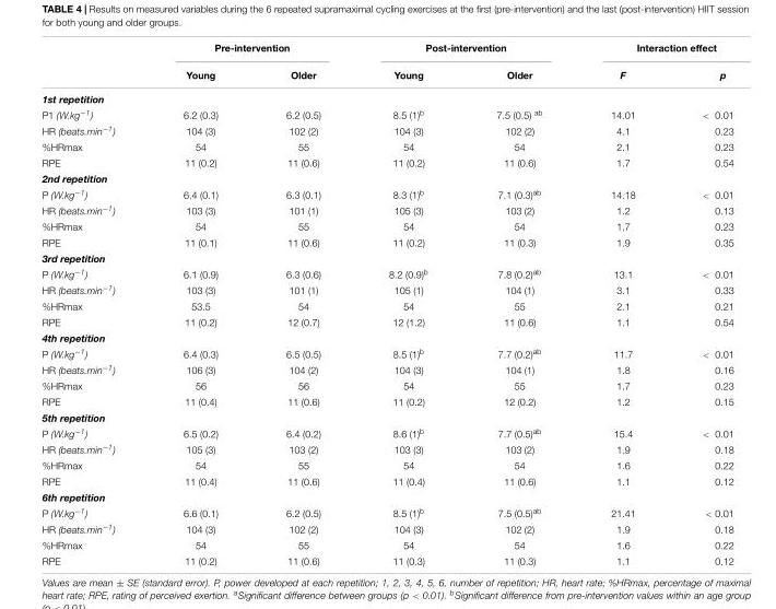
<table><thead><tr><td rowspan="2"></td><td colspan="2">Pre-intervention</td><td colspan="2">Post-intervention</td><td colspan="2">Interaction effect</td></tr><tr><td>Young</td><td>Older</td><td>Young</td><td>Older</td><td>F</td><td>p</td></tr></thead><tbody><tr><td colspan="7">1st repetition</td></tr><tr><td>P1 (W.kg−1)</td><td>6.2 (0.3)</td><td>6.2 (0.5)</td><td>8.5 (1)<sup>b</sup></td><td>7.5 (0.5) <sup>ab</sup></td><td>14.01</td><td>&lt; 0.01</td></tr><tr><td>HR (beats.min−1)</td><td>104 (3)</td><td>102 (2)</td><td>104 (3)</td><td>102 (2)</td><td>4.1</td><td>0.23</td></tr><tr><td>%HRmax</td><td>54</td><td>55</td><td>54</td><td>54</td><td>2.1</td><td>0.23</td></tr><tr><td>RPE</td><td>11 (0.2)</td><td>11 (0.6)</td><td>11 (0.2)</td><td>11 (0.6)</td><td>1.7</td><td>0.54</td></tr><tr><td colspan="7">2nd repetition</td></tr><tr><td>P (W.kg−1)</td><td>6.4 (0.1)</td><td>6.3 (0.1)</td><td>8.3 (1)<sup>b</sup></td><td>7.1 (0.3)<sup>ab</sup></td><td>14.18</td><td>&lt; 0.01</td></tr><tr><td>HR (beats.min−1)</td><td>103 (3)</td><td>101 (1)</td><td>105 (3)</td><td>103 (2)</td><td>1.2</td><td>0.13</td></tr><tr><td>%HRmax</td><td>54</td><td>55</td><td>54</td><td>54</td><td>1.7</td><td>0.23</td></tr><tr><td>RPE</td><td>11 (0.1)</td><td>11 (0.6)</td><td>11 (0.2)</td><td>11 (0.3)</td><td>1.9</td><td>0.35</td></tr><tr><td colspan="7">3rd repetition</td></tr><tr><td>P (W.kg−1)</td><td>6.1 (0.9)</td><td>6.3 (0.6)</td><td>8.2 (0.9)<sup>b</sup></td><td>7.8 (0.2)<sup>ab</sup></td><td>13.1</td><td>&lt; 0.01</td></tr><tr><td>HR (beats.min−1)</td><td>103 (3)</td><td>101 (1)</td><td>105 (1)</td><td>104 (1)</td><td>3.1</td><td>0.33</td></tr><tr><td>%HRmax</td><td>53.5</td><td>54</td><td>54</td><td>55</td><td>2.1</td><td>0.21</td></tr><tr><td>RPE</td><td>11 (0.2)</td><td>12 (0.7)</td><td>12 (1.2)</td><td>11 (0.6)</td><td>1.1</td><td>0.54</td></tr><tr><td colspan="7">4th repetition</td></tr><tr><td>P (W.kg−1)</td><td>6.4 (0.3)</td><td>6.5 (0.5)</td><td>8.5 (1)<sup>b</sup></td><td>7.7 (0.2)<sup>ab</sup></td><td>11.7</td><td>&lt; 0.01</td></tr><tr><td>HR (beats.min−1)</td><td>106 (3)</td><td>104 (2)</td><td>104 (3)</td><td>104 (1)</td><td>1.8</td><td>0.16</td></tr><tr><td>%HRmax</td><td>56</td><td>56</td><td>54</td><td>55</td><td>1.7</td><td>0.23</td></tr><tr><td>RPE</td><td>11 (0.4)</td><td>11 (0.6)</td><td>11 (0.2)</td><td>12 (0.2)</td><td>1.2</td><td>0.15</td></tr><tr><td colspan="7">5th repetition</td></tr><tr><td>P (W.kg−1)</td><td>6.5 (0.2)</td><td>6.4 (0.2)</td><td>8.6 (1)<sup>b</sup></td><td>7.7 (0.5)<sup>ab</sup></td><td>15.4</td><td>&lt; 0.01</td></tr><tr><td>HR (beats.min−1)</td><td>105 (3)</td><td>103 (2)</td><td>103 (3)</td><td>103 (2)</td><td>1.9</td><td>0.18</td></tr><tr><td>%HRmax</td><td>54</td><td>55</td><td>54</td><td>54</td><td>1.6</td><td>0.22</td></tr><tr><td>RPE</td><td>11 (0.4)</td><td>11 (0.6)</td><td>11 (0.4)</td><td>11 (0.6)</td><td>1.1</td><td>0.12</td></tr><tr><td colspan="7">6th repetition</td></tr><tr><td>P (W.kg−1)</td><td>6.6 (0.1)</td><td>6.2 (0.5)</td><td>8.5 (1)<sup>b</sup></td><td>7.5 (0.5)<sup>ab</sup></td><td>21.41</td><td>&lt; 0.01</td></tr><tr><td>HR (beats.min−1)</td><td>104 (3)</td><td>102 (2)</td><td>104 (3)</td><td>102 (2)</td><td>1.9</td><td>0.18</td></tr><tr><td>%HRmax</td><td>54</td><td>55</td><td>54</td><td>54</td><td>1.6</td><td>0.22</td></tr><tr><td>RPE</td><td>11 (0.2)</td><td>11 (0.6)</td><td>11 (0.3)</td><td>11 (0.3)</td><td>1.1</td><td>0.12</td></tr></tbody></table>